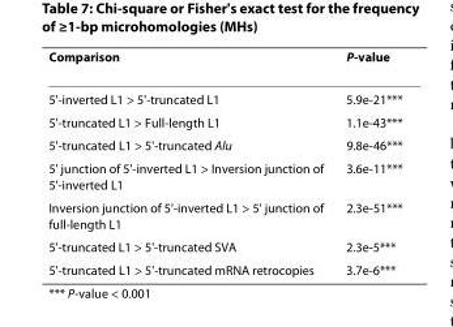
<table><thead><tr><td>Comparison</td><td>P-value</td></tr></thead><tbody><tr><td>5&#x27;-inverted L1 &gt; 5&#x27;-truncated L1</td><td>5.9e-21***</td></tr><tr><td>5&#x27;-truncated L1 &gt; Full-length L1</td><td>1.1e-43***</td></tr><tr><td>5&#x27;-truncated L1 &gt; 5&#x27;-truncated Alu</td><td>9.8e-46***</td></tr><tr><td>5&#x27; junction of 5&#x27;-inverted L1 &gt; Inversion junction of 5&#x27;-inverted L1</td><td>3.6e-11***</td></tr><tr><td>Inversion junction of 5&#x27;-inverted L1 &gt; 5&#x27; junction of full-length L1</td><td>2.3e-51***</td></tr><tr><td>5&#x27;-truncated L1 &gt; 5&#x27;-truncated SVA</td><td>2.3e-5***</td></tr><tr><td>5&#x27;-truncated L1 &gt; 5&#x27;-truncated mRNA retrocopies</td><td>3.7e-6***</td></tr></tbody></table>